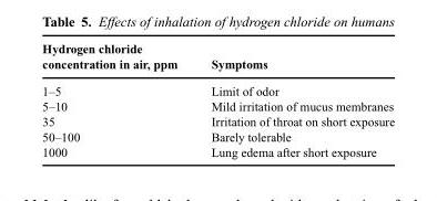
<table><thead><tr><td>Hydrogen chloride concentration in air, ppm</td><td>Symptoms</td></tr></thead><tbody><tr><td>1–5</td><td>Limit of odor</td></tr><tr><td>5–10</td><td>Mild irritation of mucus membranes</td></tr><tr><td>35</td><td>Irritation of throat on short exposure</td></tr><tr><td>50–100</td><td>Barely tolerable</td></tr><tr><td>1000</td><td>Lung edema after short exposure</td></tr></tbody></table>